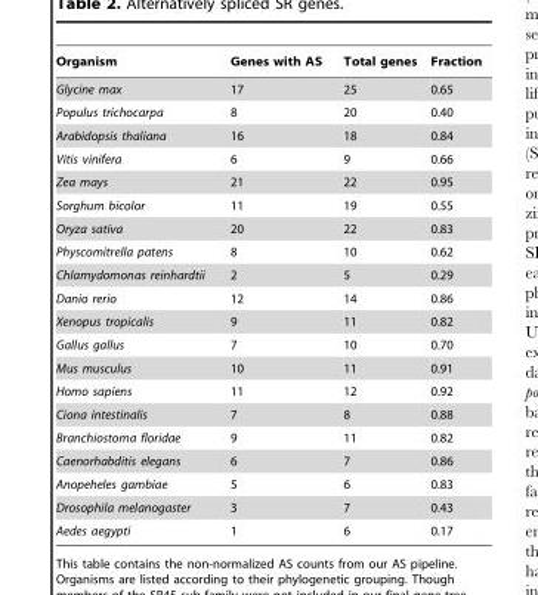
<table><thead><tr><td>Organism</td><td>Genes with AS</td><td>Total genes</td><td>Fraction</td></tr></thead><tbody><tr><td>Glycine max</td><td>17</td><td>25</td><td>0.65</td></tr><tr><td>Populus trichocarpa</td><td>8</td><td>20</td><td>0.40</td></tr><tr><td>Arabidopsis thaliana</td><td>16</td><td>18</td><td>0.84</td></tr><tr><td>Vitis vinifera</td><td>6</td><td>9</td><td>0.66</td></tr><tr><td>Zea mays</td><td>21</td><td>22</td><td>0.95</td></tr><tr><td>Sorghum bicolor</td><td>11</td><td>19</td><td>0.55</td></tr><tr><td>Oryza sativa</td><td>20</td><td>22</td><td>0.83</td></tr><tr><td>Physcomitrella patens</td><td>8</td><td>10</td><td>0.62</td></tr><tr><td>Chlamydomonas reinhardtii</td><td>2</td><td>5</td><td>0.29</td></tr><tr><td>Danio rerio</td><td>12</td><td>14</td><td>0.86</td></tr><tr><td>Xenopus tropicalis</td><td>9</td><td>11</td><td>0.82</td></tr><tr><td>Gallus gallus</td><td>7</td><td>10</td><td>0.70</td></tr><tr><td>Mus musculus</td><td>10</td><td>11</td><td>0.91</td></tr><tr><td>Homo sapiens</td><td>11</td><td>12</td><td>0.92</td></tr><tr><td>Ciona intestinalis</td><td>7</td><td>8</td><td>0.88</td></tr><tr><td>Branchiostoma floridae</td><td>9</td><td>11</td><td>0.82</td></tr><tr><td>Caenorhabditis elegans</td><td>6</td><td>7</td><td>0.86</td></tr><tr><td>Anopeheles gambiae</td><td>5</td><td>6</td><td>0.83</td></tr><tr><td>Drosophila melanogaster</td><td>3</td><td>7</td><td>0.43</td></tr><tr><td>Aedes aegypti</td><td>1</td><td>6</td><td>0.17</td></tr></tbody></table>